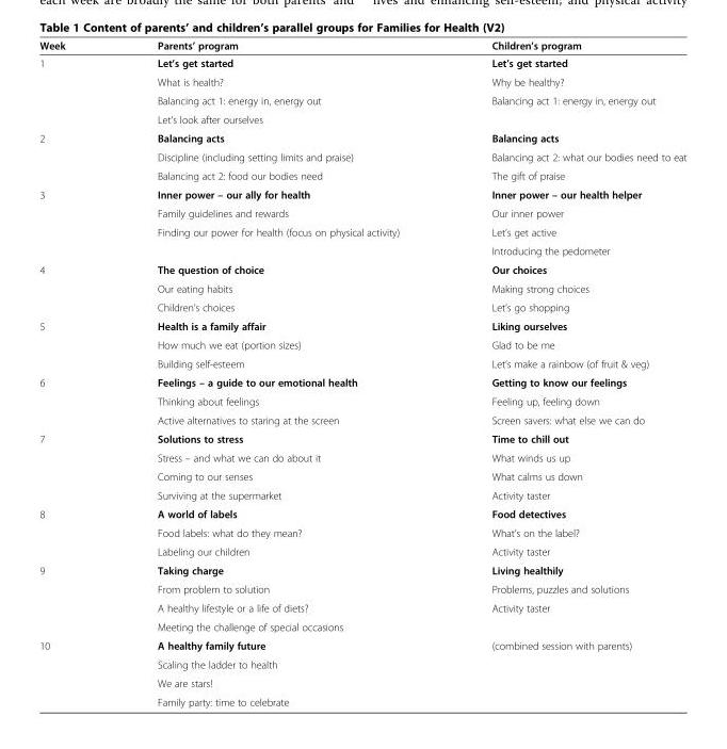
<table><thead><tr><td>Week</td><td>Parents’ program</td><td>Children’s program</td></tr></thead><tbody><tr><td rowspan="4">1</td><td>Let’s get started</td><td>Let’s get started</td></tr><tr><td>What is health?</td><td>Why be healthy?</td></tr><tr><td>Balancing act 1: energy in, energy out</td><td rowspan="2">Balancing act 1: energy in, energy out</td></tr><tr><td>Let’s look after ourselves</td></tr><tr><td rowspan="3">2</td><td>Balancing acts</td><td>Balancing acts</td></tr><tr><td>Discipline (including setting limits and praise)</td><td>Balancing act 2: what our bodies need to eat</td></tr><tr><td>Balancing act 2: food our bodies need</td><td>The gift of praise</td></tr><tr><td rowspan="4">3</td><td>Inner power – our ally for health</td><td>Inner power – our health helper</td></tr><tr><td>Family guidelines and rewards</td><td>Our inner power</td></tr><tr><td>Finding our power for health (focus on physical activity)</td><td>Let’s get active</td></tr><tr><td></td><td>Introducing the pedometer</td></tr><tr><td rowspan="3">4</td><td>The question of choice</td><td>Our choices</td></tr><tr><td>Our eating habits</td><td>Making strong choices</td></tr><tr><td>Children’s choices</td><td>Let’s go shopping</td></tr><tr><td rowspan="3">5</td><td>Health is a family affair</td><td>Liking ourselves</td></tr><tr><td>How much we eat (portion sizes)</td><td>Glad to be me</td></tr><tr><td>Building self-esteem</td><td>Let’s make a rainbow (of fruit &amp; veg)</td></tr><tr><td rowspan="3">6</td><td>Feelings – a guide to our emotional health</td><td>Getting to know our feelings</td></tr><tr><td>Thinking about feelings</td><td>Feeling up, feeling down</td></tr><tr><td>Active alternatives to staring at the screen</td><td>Screen savers: what else we can do</td></tr><tr><td rowspan="4">7</td><td>Solutions to stress</td><td>Time to chill out</td></tr><tr><td>Stress – and what we can do about it</td><td>What winds us up</td></tr><tr><td>Coming to our senses</td><td>What calms us down</td></tr><tr><td>Surviving at the supermarket</td><td>Activity taster</td></tr><tr><td rowspan="3">8</td><td>A world of labels</td><td>Food detectives</td></tr><tr><td>Food labels: what do they mean?</td><td>What’s on the label?</td></tr><tr><td>Labeling our children</td><td>Activity taster</td></tr><tr><td rowspan="4">9</td><td>Taking charge</td><td>Living healthily</td></tr><tr><td>From problem to solution</td><td>Problems, puzzles and solutions</td></tr><tr><td>A healthy lifestyle or a life of diets?</td><td>Activity taster</td></tr><tr><td>Meeting the challenge of special occasions</td><td></td></tr><tr><td rowspan="4">10</td><td>A healthy family future</td><td>(combined session with parents)</td></tr><tr><td>Scaling the ladder to health</td><td></td></tr><tr><td>We are stars!</td><td></td></tr><tr><td>Family party: time to celebrate</td><td></td></tr></tbody></table>